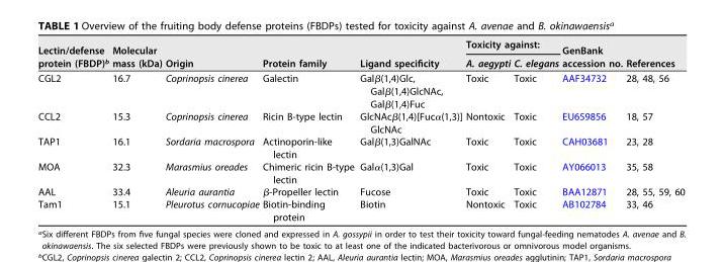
<table><thead><tr><td rowspan="2">Lectin/defense protein (FBDP)<sup>b</sup></td><td rowspan="2">Molecular mass (kDa)</td><td rowspan="2">Origin</td><td rowspan="2">Protein family</td><td rowspan="2">Ligand specificity</td><td colspan="2">Toxicity against:</td><td rowspan="2">GenBank accession no.</td><td rowspan="2">References</td></tr><tr><td>A. aegypti</td><td>C. elegans</td></tr></thead><tbody><tr><td>CGL2</td><td>16.7</td><td>Coprinopsis cinerea</td><td>Galectin</td><td>Galβ(1,4)Glc, Galβ(1,4)GlcNAc, Galβ(1,4)Fuc</td><td>Toxic</td><td>Toxic</td><td>AAF34732</td><td>28, 48, 56</td></tr><tr><td>CCL2</td><td>15.3</td><td>Coprinopsis cinerea</td><td>Ricin B-type lectin</td><td>GlcNAcβ(1,4)[Fucα(1,3)] GlcNAc</td><td>Nontoxic</td><td>Toxic</td><td>EU659856</td><td>18, 57</td></tr><tr><td>TAP1</td><td>16.1</td><td>Sordaria macrospora</td><td>Actinoporin-like lectin</td><td>Galβ(1,3)GalNAc</td><td>Toxic</td><td>Toxic</td><td>CAH03681</td><td>23, 28</td></tr><tr><td>MOA</td><td>32.3</td><td>Marasmius oreades</td><td>Chimeric ricin B-type lectin</td><td>Galα(1,3)Gal</td><td>Toxic</td><td>Toxic</td><td>AY066013</td><td>35, 58</td></tr><tr><td>AAL</td><td>33.4</td><td>Aleuria aurantia</td><td>β-Propeller lectin</td><td>Fucose</td><td>Toxic</td><td>Toxic</td><td>BAA12871</td><td>28, 55, 59, 60</td></tr><tr><td>Tam1</td><td>15.1</td><td>Pleurotus cornucopiae</td><td>Biotin-binding protein</td><td>Biotin</td><td>Nontoxic</td><td>Toxic</td><td>AB102784</td><td>33, 46</td></tr></tbody></table>